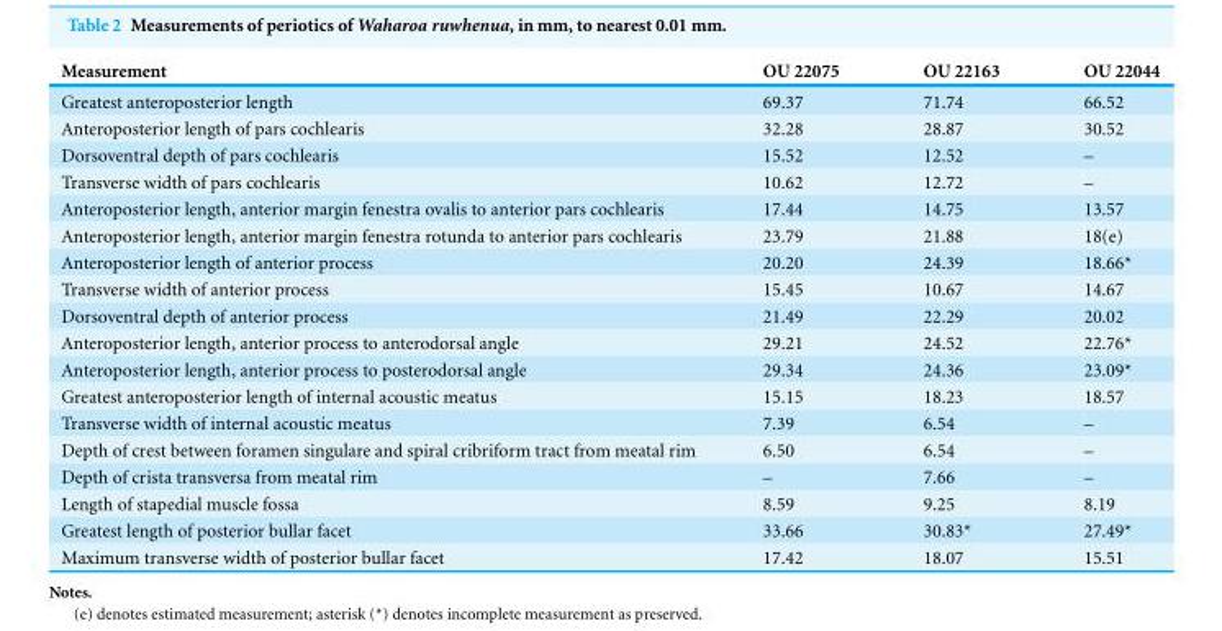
<table><thead><tr><td>Measurement</td><td>OU 22075</td><td>OU 22163</td><td>OU 22044</td></tr></thead><tbody><tr><td>Greatest anteroposterior length</td><td>69.37</td><td>71.74</td><td>66.52</td></tr><tr><td>Anteroposterior length of pars cochlearis</td><td>32.28</td><td>28.87</td><td>30.52</td></tr><tr><td>Dorsoventral depth of pars cochlearis</td><td>15.52</td><td>12.52</td><td>–</td></tr><tr><td>Transverse width of pars cochlearis</td><td>10.62</td><td>12.72</td><td>–</td></tr><tr><td>Anteroposterior length, anterior margin fenestra ovalis to anterior pars cochlearis</td><td>17.44</td><td>14.75</td><td>13.57</td></tr><tr><td>Anteroposterior length, anterior margin fenestra rotunda to anterior pars cochlearis</td><td>23.79</td><td>21.88</td><td>18(e)</td></tr><tr><td>Anteroposterior length of anterior process</td><td>20.20</td><td>24.39</td><td>18.66*</td></tr><tr><td>Transverse width of anterior process</td><td>15.45</td><td>10.67</td><td>14.67</td></tr><tr><td>Dorsoventral depth of anterior process</td><td>21.49</td><td>22.29</td><td>20.02</td></tr><tr><td>Anteroposterior length, anterior process to anterodorsal angle</td><td>29.21</td><td>24.52</td><td>22.76*</td></tr><tr><td>Anteroposterior length, anterior process to posterodorsal angle</td><td>29.34</td><td>24.36</td><td>23.09*</td></tr><tr><td>Greatest anteroposterior length of internal acoustic meatus</td><td>15.15</td><td>18.23</td><td>18.57</td></tr><tr><td>Transverse width of internal acoustic meatus</td><td>7.39</td><td>6.54</td><td>–</td></tr><tr><td>Depth of crest between foramen singulare and spiral cribriform tract from meatal rim</td><td>6.50</td><td>6.54</td><td>–</td></tr><tr><td>Depth of crista transversa from meatal rim</td><td>–</td><td>7.66</td><td>–</td></tr><tr><td>Length of stapedial muscle fossa</td><td>8.59</td><td>9.25</td><td>8.19</td></tr><tr><td>Greatest length of posterior bullar facet</td><td>33.66</td><td>30.83*</td><td>27.49*</td></tr><tr><td>Maximum transverse width of posterior bullar facet</td><td>17.42</td><td>18.07</td><td>15.51</td></tr></tbody></table>